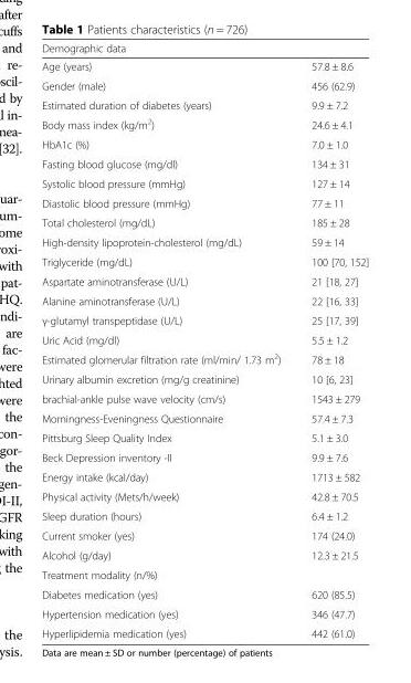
<table><thead><tr><td>Demographic data</td><td></td></tr></thead><tbody><tr><td>Age (years)</td><td>57.8 ± 8.6</td></tr><tr><td>Gender (male)</td><td>456 (62.9)</td></tr><tr><td>Estimated duration of diabetes (years)</td><td>9.9 ± 7.2</td></tr><tr><td>Body mass index (kg/m<sup>2</sup>)</td><td>24.6 ± 4.1</td></tr><tr><td>HbA1c (%)</td><td>7.0 ± 1.0</td></tr><tr><td>Fasting blood glucose (mg/dl)</td><td>134 ± 31</td></tr><tr><td>Systolic blood pressure (mmHg)</td><td>127 ± 14</td></tr><tr><td>Diastolic blood pressure (mmHg)</td><td>77 ± 11</td></tr><tr><td>Total cholesterol (mg/dL)</td><td>185 ± 28</td></tr><tr><td>High-density lipoprotein-cholesterol (mg/dL)</td><td>59 ± 14</td></tr><tr><td>Triglyceride (mg/dL)</td><td>100 [70, 152]</td></tr><tr><td>Aspartate aminotransferase (U/L)</td><td>21 [18, 27]</td></tr><tr><td>Alanine aminotransferase (U/L)</td><td>22 [16, 33]</td></tr><tr><td>γ-glutamyl transpeptidase (U/L)</td><td>25 [17, 39]</td></tr><tr><td>Uric Acid (mg/dl)</td><td>5.5 ± 1.2</td></tr><tr><td>Estimated glomerular filtration rate (ml/min/ 1.73 m<sup>2</sup>)</td><td>78 ± 18</td></tr><tr><td>Urinary albumin excretion (mg/g creatinine)</td><td>10 [6, 23]</td></tr><tr><td>brachial-ankle pulse wave velocity (cm/s)</td><td>1543 ± 279</td></tr><tr><td>Morningness-Eveningness Questionnaire</td><td>57.4 ± 7.3</td></tr><tr><td>Pittsburg Sleep Quality Index</td><td>5.1 ± 3.0</td></tr><tr><td>Beck Depression inventory -II</td><td>9.9 ± 7.6</td></tr><tr><td>Energy intake (kcal/day)</td><td>1713 ± 582</td></tr><tr><td>Physical activity (Mets/h/week)</td><td>42.8 ± 70.5</td></tr><tr><td>Sleep duration (hours)</td><td>6.4 ± 1.2</td></tr><tr><td>Current smoker (yes)</td><td>174 (24.0)</td></tr><tr><td>Alcohol (g/day)</td><td>12.3 ± 21.5</td></tr><tr><td colspan="2">Treatment modality (n/%)</td></tr><tr><td>Diabetes medication (yes)</td><td>620 (85.5)</td></tr><tr><td>Hypertension medication (yes)</td><td>346 (47.7)</td></tr><tr><td>Hyperlipidemia medication (yes)</td><td>442 (61.0)</td></tr></tbody></table>